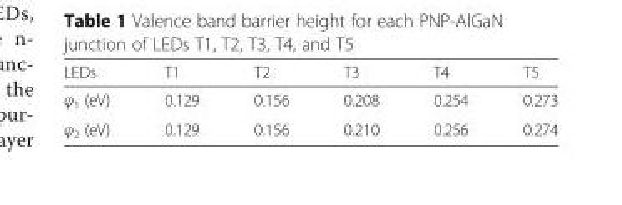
<table><thead><tr><td>LEDs</td><td>T1</td><td>T2</td><td>T3</td><td>T4</td><td>T5</td></tr></thead><tbody><tr><td>φ<sub>1</sub> (eV)</td><td>0.129</td><td>0.156</td><td>0.208</td><td>0.254</td><td>0.273</td></tr><tr><td>φ<sub>2</sub> (eV)</td><td>0.129</td><td>0.156</td><td>0.210</td><td>0.256</td><td>0.274</td></tr></tbody></table>